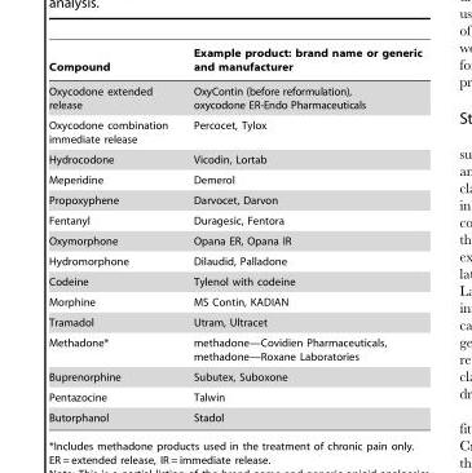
<table><thead><tr><td>Compound</td><td>Example product: brand name or generic and manufacturer</td></tr></thead><tbody><tr><td>Oxycodone extended release</td><td>OxyContin (before reformulation), oxycodone ER-Endo Pharmaceuticals</td></tr><tr><td>Oxycodone combination immediate release</td><td>Percocet, Tylox</td></tr><tr><td>Hydrocodone</td><td>Vicodin, Lortab</td></tr><tr><td>Meperidine</td><td>Demerol</td></tr><tr><td>Propoxyphene</td><td>Darvocet, Darvon</td></tr><tr><td>Fentanyl</td><td>Duragesic, Fentora</td></tr><tr><td>Oxymorphone</td><td>Opana ER, Opana IR</td></tr><tr><td>Hydromorphone</td><td>Dilaudid, Palladone</td></tr><tr><td>Codeine</td><td>Tylenol with codeine</td></tr><tr><td>Morphine</td><td>MS Contin, KADIAN</td></tr><tr><td>Tramadol</td><td>Utram, Ultracet</td></tr><tr><td>Methadone*</td><td>methadone—Covidien Pharmaceuticals, methadone—Roxane Laboratories</td></tr><tr><td>Buprenorphine</td><td>Subutex, Suboxone</td></tr><tr><td>Pentazocine</td><td>Talwin</td></tr><tr><td>Butorphanol</td><td>Stadol</td></tr></tbody></table>